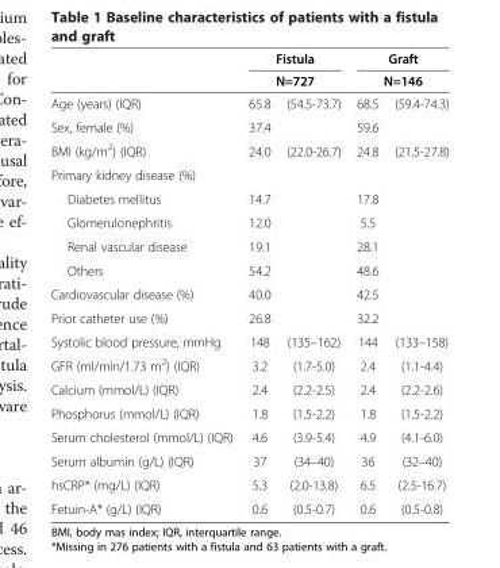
<table><thead><tr><td rowspan="3">Age (years) (IQR)</td><td rowspan="2" colspan="2">Fistula N=727</td><td rowspan="2" colspan="2">Graft N=146</td></tr><tr></tr><tr><td>65.8</td><td>(54.5-73.7)</td><td>68.5</td><td>(59.4-74.3)</td></tr></thead><tbody><tr><td>Sex, female (%)</td><td>37.4</td><td></td><td>59.6</td><td></td></tr><tr><td>BMI (kg/m<sup>2</sup>) (IQR)</td><td>24.0</td><td>(22.0-26.7)</td><td>24.8</td><td>(21.5-27.8)</td></tr><tr><td colspan="5">Primary kidney disease (%)</td></tr><tr><td>Diabetes mellitus</td><td>14.7</td><td></td><td>17.8</td><td></td></tr><tr><td>Glomerulonephritis</td><td>12.0</td><td></td><td>5.5</td><td></td></tr><tr><td>Renal vascular disease</td><td>19.1</td><td></td><td>28.1</td><td></td></tr><tr><td>Others</td><td>54.2</td><td></td><td>48.6</td><td></td></tr><tr><td>Cardiovascular disease (%)</td><td>40.0</td><td></td><td>42.5</td><td></td></tr><tr><td>Prior catheter use (%)</td><td>26.8</td><td></td><td>32.2</td><td></td></tr><tr><td>Systolic blood pressure, mmHg</td><td>148</td><td>(135–162)</td><td>144</td><td>(133–158)</td></tr><tr><td>GFR (ml/min/1.73 m<sup>2</sup>) (IQR)</td><td>3.2</td><td>(1.7-5.0)</td><td>2.4</td><td>(1.1-4.4)</td></tr><tr><td>Calcium (mmol/L) (IQR)</td><td>2.4</td><td>(2.2-2.5)</td><td>2.4</td><td>(2.2-2.6)</td></tr><tr><td>Phosphorus (mmol/L) (IQR)</td><td>1.8</td><td>(1.5-2.2)</td><td>1.8</td><td>(1.5-2.2)</td></tr><tr><td>Serum cholesterol (mmol/L) (IQR)</td><td>4.6</td><td>(3.9-5.4)</td><td>4.9</td><td>(4.1-6.0)</td></tr><tr><td>Serum albumin (g/L) (IQR)</td><td>37</td><td>(34–40)</td><td>36</td><td>(32–40)</td></tr><tr><td>hsCRP* (mg/L) (IQR)</td><td>5.3</td><td>(2.0-13.8)</td><td>6.5</td><td>(2.5-16.7)</td></tr><tr><td>Fetuin-A* (g/L) (IQR)</td><td>0.6</td><td>(0.5-0.7)</td><td>0.6</td><td>(0.5-0.8)</td></tr></tbody></table>